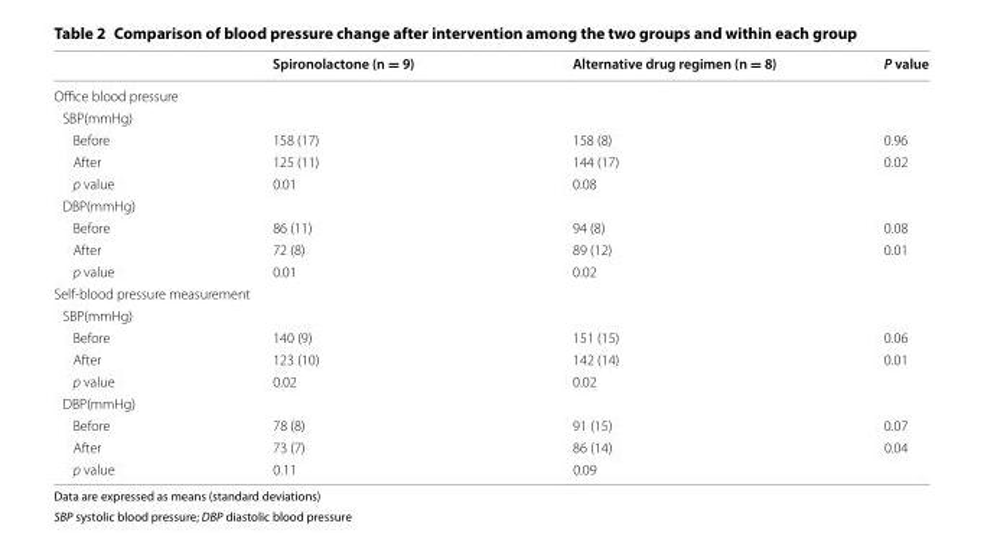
<table><thead><tr><td></td><td>Spironolactone (n = 9)</td><td>Alternative drug regimen (n = 8)</td><td>P value</td></tr></thead><tbody><tr><td colspan="4">Office blood pressure</td></tr><tr><td colspan="4">SBP(mmHg)</td></tr><tr><td>Before</td><td>158 (17)</td><td>158 (8)</td><td>0.96</td></tr><tr><td>After</td><td>125 (11)</td><td>144 (17)</td><td>0.02</td></tr><tr><td>p value</td><td>0.01</td><td>0.08</td><td></td></tr><tr><td colspan="4">DBP(mmHg)</td></tr><tr><td>Before</td><td>86 (11)</td><td>94 (8)</td><td>0.08</td></tr><tr><td>After</td><td>72 (8)</td><td>89 (12)</td><td>0.01</td></tr><tr><td>p value</td><td>0.01</td><td>0.02</td><td></td></tr><tr><td colspan="4">Self-blood pressure measurement</td></tr><tr><td colspan="4">SBP(mmHg)</td></tr><tr><td>Before</td><td>140 (9)</td><td>151 (15)</td><td>0.06</td></tr><tr><td>After</td><td>123 (10)</td><td>142 (14)</td><td>0.01</td></tr><tr><td>p value</td><td>0.02</td><td>0.02</td><td></td></tr><tr><td colspan="4">DBP(mmHg)</td></tr><tr><td>Before</td><td>78 (8)</td><td>91 (15)</td><td>0.07</td></tr><tr><td>After</td><td>73 (7)</td><td>86 (14)</td><td>0.04</td></tr><tr><td>p value</td><td>0.11</td><td>0.09</td><td></td></tr></tbody></table>